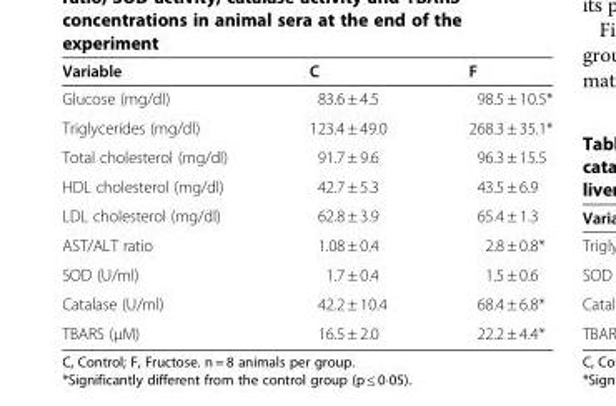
<table><thead><tr><td>Variable</td><td>C</td><td>F</td></tr></thead><tbody><tr><td>Glucose (mg/dl)</td><td>83.6 ± 4.5</td><td>98.5 ± 10.5*</td></tr><tr><td>Triglycerides (mg/dl)</td><td>123.4 ± 49.0</td><td>268.3 ± 35.1*</td></tr><tr><td>Total cholesterol (mg/dl)</td><td>91.7 ± 9.6</td><td>96.3 ± 15.5</td></tr><tr><td>HDL cholesterol (mg/dl)</td><td>42.7 ± 5.3</td><td>43.5 ± 6.9</td></tr><tr><td>LDL cholesterol (mg/dl)</td><td>62.8 ± 3.9</td><td>65.4 ± 1.3</td></tr><tr><td>AST/ALT ratio</td><td>1.08 ± 0.4</td><td>2.8 ± 0.8*</td></tr><tr><td>SOD (U/ml)</td><td>1.7 ± 0.4</td><td>1.5 ± 0.6</td></tr><tr><td>Catalase (U/ml)</td><td>42.2 ± 10.4</td><td>68.4 ± 6.8*</td></tr><tr><td>TBARS (μM)</td><td>16.5 ± 2.0</td><td>22.2 ± 4.4*</td></tr></tbody></table>